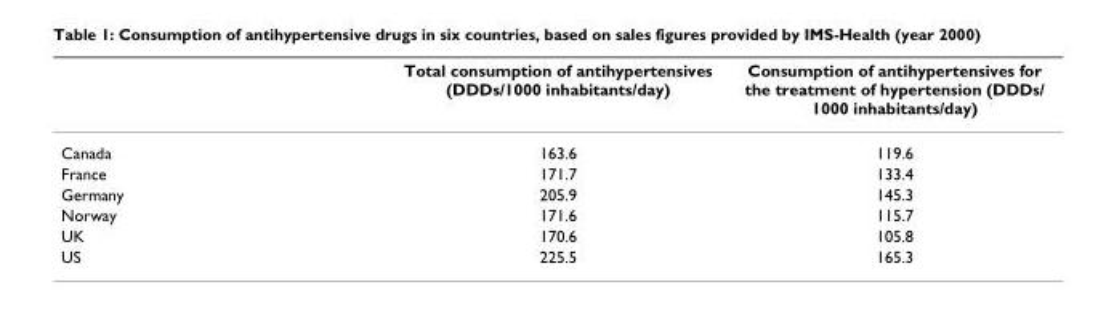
<table><thead><tr><td></td><td>Total consumption of antihypertensives (DDDs/1000 inhabitants/day)</td><td>Consumption of antihypertensives for the treatment of hypertension (DDDs/ 1000 inhabitants/day)</td></tr></thead><tbody><tr><td>Canada</td><td>163.6</td><td>119.6</td></tr><tr><td>France</td><td>171.7</td><td>133.4</td></tr><tr><td>Germany</td><td>205.9</td><td>145.3</td></tr><tr><td>Norway</td><td>171.6</td><td>115.7</td></tr><tr><td>UK</td><td>170.6</td><td>105.8</td></tr><tr><td>US</td><td>225.5</td><td>165.3</td></tr></tbody></table>